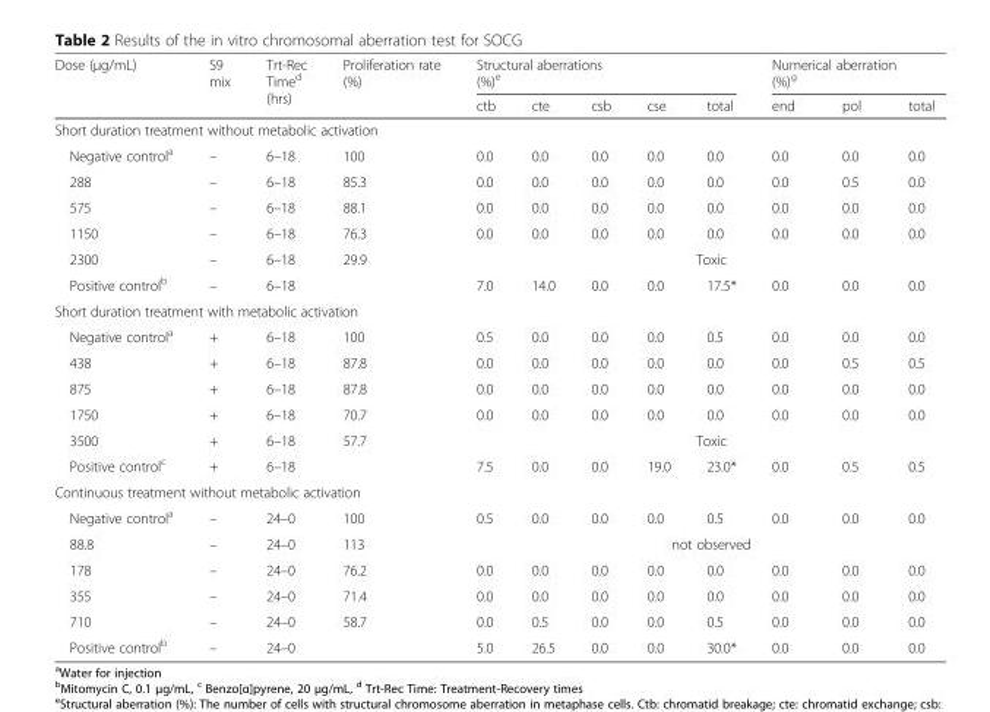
<table><thead><tr><td rowspan="2">Dose (μg/mL)</td><td rowspan="2">S9 mix</td><td rowspan="2">Trt-Rec Time<sup>d</sup> (hrs)</td><td rowspan="2">Proliferation rate (%)</td><td colspan="5">Structural aberrations (%)<sup>e</sup></td><td colspan="3">Numerical aberration (%)<sup>g</sup></td></tr><tr><td>ctb</td><td>cte</td><td>csb</td><td>cse</td><td>total</td><td>end</td><td>pol</td><td>total</td></tr></thead><tbody><tr><td colspan="12">Short duration treatment without metabolic activation</td></tr><tr><td>Negative control<sup>a</sup></td><td>–</td><td>6–18</td><td>100</td><td>0.0</td><td>0.0</td><td>0.0</td><td>0.0</td><td>0.0</td><td>0.0</td><td>0.0</td><td>0.0</td></tr><tr><td>288</td><td>–</td><td>6–18</td><td>85.3</td><td>0.0</td><td>0.0</td><td>0.0</td><td>0.0</td><td>0.0</td><td>0.0</td><td>0.5</td><td>0.0</td></tr><tr><td>575</td><td>–</td><td>6–18</td><td>88.1</td><td>0.0</td><td>0.0</td><td>0.0</td><td>0.0</td><td>0.0</td><td>0.0</td><td>0.0</td><td>0.0</td></tr><tr><td>1150</td><td>–</td><td>6–18</td><td>76.3</td><td>0.0</td><td>0.0</td><td>0.0</td><td>0.0</td><td>0.0</td><td>0.0</td><td>0.0</td><td>0.0</td></tr><tr><td>2300</td><td>–</td><td>6–18</td><td>29.9</td><td colspan="8">Toxic</td></tr><tr><td>Positive control<sup>b</sup></td><td>–</td><td>6–18</td><td></td><td>7.0</td><td>14.0</td><td>0.0</td><td>0.0</td><td>17.5*</td><td>0.0</td><td>0.0</td><td>0.0</td></tr><tr><td colspan="12">Short duration treatment with metabolic activation</td></tr><tr><td>Negative control<sup>a</sup></td><td>+</td><td>6–18</td><td>100</td><td>0.5</td><td>0.0</td><td>0.0</td><td>0.0</td><td>0.5</td><td>0.0</td><td>0.0</td><td>0.0</td></tr><tr><td>438</td><td>+</td><td>6–18</td><td>87.8</td><td>0.0</td><td>0.0</td><td>0.0</td><td>0.0</td><td>0.0</td><td>0.0</td><td>0.5</td><td>0.5</td></tr><tr><td>875</td><td>+</td><td>6–18</td><td>87.8</td><td>0.0</td><td>0.0</td><td>0.0</td><td>0.0</td><td>0.0</td><td>0.0</td><td>0.0</td><td>0.0</td></tr><tr><td>1750</td><td>+</td><td>6–18</td><td>70.7</td><td>0.0</td><td>0.0</td><td>0.0</td><td>0.0</td><td>0.0</td><td>0.0</td><td>0.0</td><td>0.0</td></tr><tr><td>3500</td><td>+</td><td>6–18</td><td>57.7</td><td colspan="8">Toxic</td></tr><tr><td>Positive control<sup>c</sup></td><td>+</td><td>6–18</td><td></td><td>7.5</td><td>0.0</td><td>0.0</td><td>19.0</td><td>23.0*</td><td>0.0</td><td>0.5</td><td>0.5</td></tr><tr><td colspan="12">Continuous treatment without metabolic activation</td></tr><tr><td>Negative control<sup>a</sup></td><td>–</td><td>24–0</td><td>100</td><td>0.5</td><td>0.0</td><td>0.0</td><td>0.0</td><td>0.5</td><td>0.0</td><td>0.0</td><td>0.0</td></tr><tr><td>88.8</td><td>–</td><td>24–0</td><td>113</td><td colspan="8">not observed</td></tr><tr><td>178</td><td>–</td><td>24–0</td><td>76.2</td><td>0.0</td><td>0.0</td><td>0.0</td><td>0.0</td><td>0.0</td><td>0.0</td><td>0.0</td><td>0.0</td></tr><tr><td>355</td><td>–</td><td>24–0</td><td>71.4</td><td>0.0</td><td>0.0</td><td>0.0</td><td>0.0</td><td>0.0</td><td>0.0</td><td>0.0</td><td>0.0</td></tr><tr><td>710</td><td>–</td><td>24–0</td><td>58.7</td><td>0.0</td><td>0.5</td><td>0.0</td><td>0.0</td><td>0.5</td><td>0.0</td><td>0.0</td><td>0.0</td></tr><tr><td>Positive control<sup>b</sup></td><td>–</td><td>24–0</td><td></td><td>5.0</td><td>26.5</td><td>0.0</td><td>0.0</td><td>30.0*</td><td>0.0</td><td>0.0</td><td>0.0</td></tr></tbody></table>